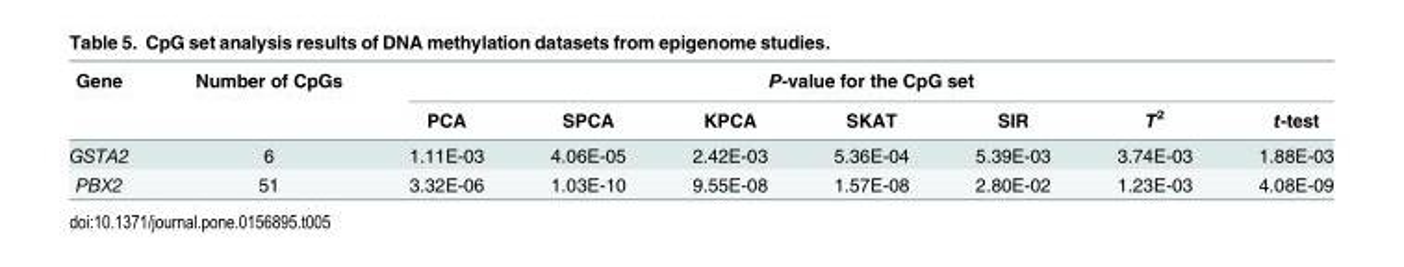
<table><thead><tr><td rowspan="2">Gene</td><td rowspan="2">Number of CpGs</td><td colspan="7">P-value for the CpG set</td></tr><tr><td>PCA</td><td>SPCA</td><td>KPCA</td><td>SKAT</td><td>SIR</td><td>T<sup>2</sup></td><td>t-test</td></tr></thead><tbody><tr><td>GSTA2</td><td>6</td><td>1.11E-03</td><td>4.06E-05</td><td>2.42E-03</td><td>5.36E-04</td><td>5.39E-03</td><td>3.74E-03</td><td>1.88E-03</td></tr><tr><td>PBX2</td><td>51</td><td>3.32E-06</td><td>1.03E-10</td><td>9.55E-08</td><td>1.57E-08</td><td>2.80E-02</td><td>1.23E-03</td><td>4.08E-09</td></tr></tbody></table>